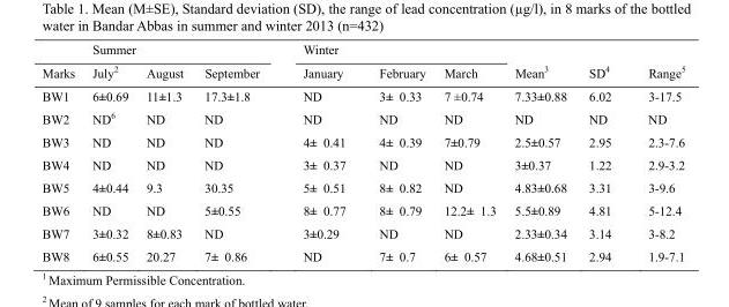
<table><thead><tr><td rowspan="2">Marks</td><td colspan="3">Summer</td><td colspan="3">Winter</td><td rowspan="2">Mean<sup>3</sup></td><td rowspan="2">SD<sup>4</sup></td><td rowspan="2">Range<sup>5</sup></td></tr><tr><td>July<sup>2</sup></td><td>August</td><td>September</td><td>January</td><td>February</td><td>March</td></tr></thead><tbody><tr><td>BW1</td><td>6±0.69</td><td>11±1.3</td><td>17.3±1.8</td><td>ND</td><td>3± 0.33</td><td>7 ±0.74</td><td>7.33±0.88</td><td>6.02</td><td>3-17.5</td></tr><tr><td>BW2</td><td>ND<sup>6</sup></td><td>ND</td><td>ND</td><td>ND</td><td>ND</td><td>ND</td><td>ND</td><td>ND</td><td>ND</td></tr><tr><td>BW3</td><td>ND</td><td>ND</td><td>ND</td><td>4± 0.41</td><td>4± 0.39</td><td>7±0.79</td><td>2.5±0.57</td><td>2.95</td><td>2.3-7.6</td></tr><tr><td>BW4</td><td>ND</td><td>ND</td><td>ND</td><td>3± 0.37</td><td>ND</td><td>ND</td><td>3±0.37</td><td>1.22</td><td>2.9-3.2</td></tr><tr><td>BW5</td><td>4±0.44</td><td>9.3</td><td>30.35</td><td>5± 0.51</td><td>8± 0.82</td><td>ND</td><td>4.83±0.68</td><td>3.31</td><td>3-9.6</td></tr><tr><td>BW6</td><td>ND</td><td>ND</td><td>5±0.55</td><td>8± 0.77</td><td>8± 0.79</td><td>12.2± 1.3</td><td>5.5±0.89</td><td>4.81</td><td>5-12.4</td></tr><tr><td>BW7</td><td>3±0.32</td><td>8±0.83</td><td>ND</td><td>3±0.29</td><td>ND</td><td>ND</td><td>2.33±0.34</td><td>3.14</td><td>3-8.2</td></tr><tr><td>BW8</td><td>6±0.55</td><td>20.27</td><td>7± 0.86</td><td>ND</td><td>7± 0.7</td><td>6± 0.57</td><td>4.68±0.51</td><td>2.94</td><td>1.9-7.1</td></tr></tbody></table>